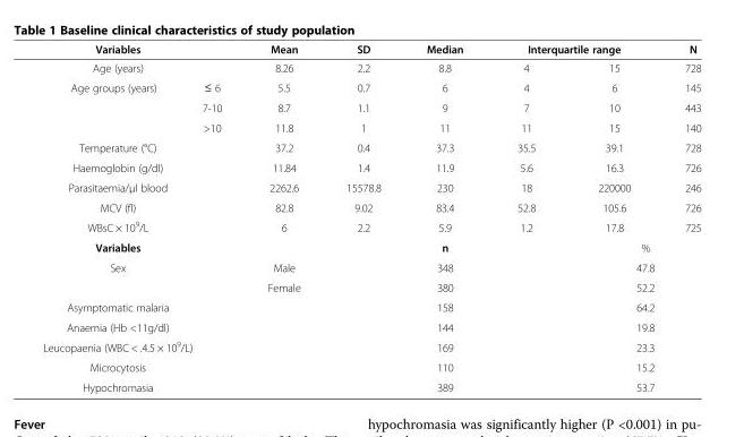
<table><thead><tr><td rowspan="2">Variables Age (years)</td><td rowspan="2"></td><td rowspan="2">Mean 8.26</td><td rowspan="2">SD 2.2</td><td rowspan="2">Median 8.8</td><td colspan="2">Interquartile range</td><td rowspan="2">N 728</td></tr><tr><td>4</td><td>15</td></tr></thead><tbody><tr><td rowspan="3">Age groups (years)</td><td>≤ 6</td><td>5.5</td><td>0.7</td><td>6</td><td>4</td><td>6</td><td>145</td></tr><tr><td>7-10</td><td>8.7</td><td>1.1</td><td>9</td><td>7</td><td>10</td><td>443</td></tr><tr><td>&gt;10</td><td>11.8</td><td>1</td><td>11</td><td>11</td><td>15</td><td>140</td></tr><tr><td>Temperature (°C)</td><td></td><td>37.2</td><td>0.4</td><td>37.3</td><td>35.5</td><td>39.1</td><td>728</td></tr><tr><td>Haemoglobin (g/dl)</td><td></td><td>11.84</td><td>1.4</td><td>11.9</td><td>5.6</td><td>16.3</td><td>726</td></tr><tr><td>Parasitaemia/μl blood</td><td></td><td>2262.6</td><td>15578.8</td><td>230</td><td>18</td><td>220000</td><td>246</td></tr><tr><td>MCV (fl)</td><td></td><td>82.8</td><td>9.02</td><td>83.4</td><td>52.8</td><td>105.6</td><td>726</td></tr><tr><td>WBsC × 10<sup>9</sup>/L</td><td></td><td>6</td><td>2.2</td><td>5.9</td><td>1.2</td><td>17.8</td><td>725</td></tr><tr><td>Variables</td><td></td><td></td><td></td><td>n</td><td></td><td colspan="2">%</td></tr><tr><td rowspan="2">Sex</td><td></td><td>Male</td><td></td><td>348</td><td></td><td colspan="2">47.8</td></tr><tr><td></td><td>Female</td><td></td><td>380</td><td></td><td colspan="2">52.2</td></tr><tr><td>Asymptomatic malaria</td><td></td><td></td><td></td><td>158</td><td></td><td colspan="2">64.2</td></tr><tr><td>Anaemia (Hb &lt;11g/dl)</td><td></td><td></td><td></td><td>144</td><td></td><td colspan="2">19.8</td></tr><tr><td>Leucopaenia (WBC &lt; .4.5 × 10<sup>9</sup>/L)</td><td></td><td></td><td></td><td>169</td><td></td><td colspan="2">23.3</td></tr><tr><td>Microcytosis</td><td></td><td></td><td></td><td>110</td><td></td><td colspan="2">15.2</td></tr><tr><td>Hypochromasia</td><td></td><td></td><td></td><td>389</td><td></td><td colspan="2">53.7</td></tr></tbody></table>